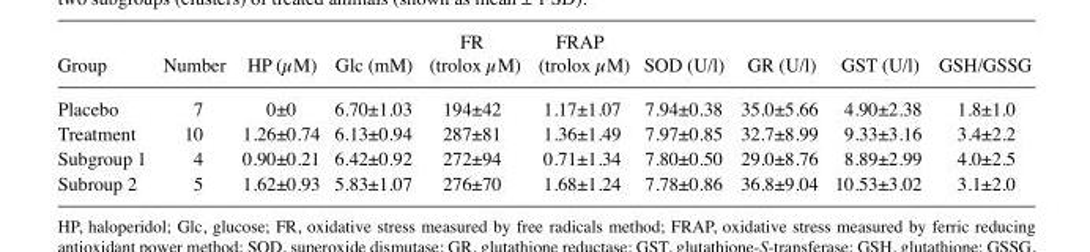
<table><thead><tr><td>Group</td><td>Number</td><td>HP (µM)</td><td>Glc (mM)</td><td>(trolox µM)</td><td>(trolox µM)</td><td>SOD (U/l)</td><td>GR (U/l)</td><td>GST (U/l)</td><td>GSH/GSSG</td></tr></thead><tbody><tr><td>Placebo</td><td>7</td><td>0±0</td><td>6.70±1.03</td><td>194±42</td><td>1.17±1.07</td><td>7.94±0.38</td><td>35.0±5.66</td><td>4.90±2.38</td><td>1.8±1.0</td></tr><tr><td>Treatment</td><td>10</td><td>1.26±0.74</td><td>6.13±0.94</td><td>287±81</td><td>1.36±1.49</td><td>7.97±0.85</td><td>32.7±8.99</td><td>9.33±3.16</td><td>3.4±2.2</td></tr><tr><td>Subgroup 1</td><td>4</td><td>0.90±0.21</td><td>6.42±0.92</td><td>272±94</td><td>0.71±1.34</td><td>7.80±0.50</td><td>29.0±8.76</td><td>8.89±2.99</td><td>4.0±2.5</td></tr><tr><td>Subroup 2</td><td>5</td><td>1.62±0.93</td><td>5.83±1.07</td><td>276±70</td><td>1.68±1.24</td><td>7.78±0.86</td><td>36.8±9.04</td><td>10.53±3.02</td><td>3.1±2.0</td></tr></tbody></table>